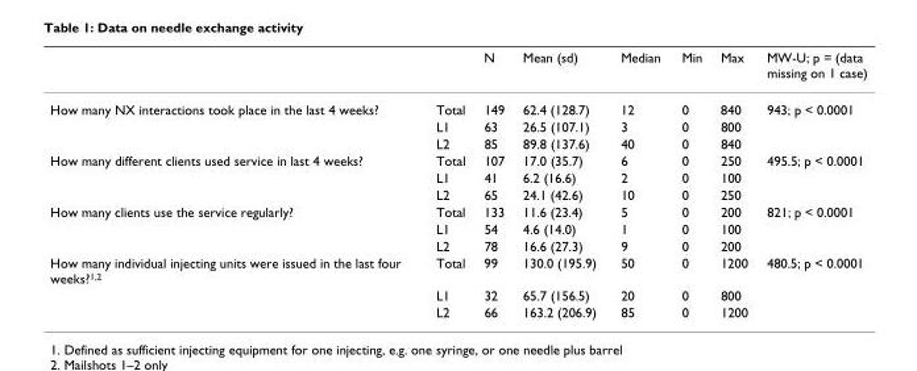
<table><thead><tr><td></td><td></td><td>N</td><td>Mean (sd)</td><td>Median</td><td>Min</td><td>Max</td><td>MW-U; p = (data missing on 1 case)</td></tr></thead><tbody><tr><td rowspan="3">How many NX interactions took place in the last 4 weeks?</td><td>Total</td><td>149</td><td>62.4 (128.7)</td><td>12</td><td>0</td><td>840</td><td>943; p &lt; 0.0001</td></tr><tr><td>L1</td><td>63</td><td>26.5 (107.1)</td><td>3</td><td>0</td><td>800</td><td></td></tr><tr><td>L2</td><td>85</td><td>89.8 (137.6)</td><td>40</td><td>0</td><td>840</td><td></td></tr><tr><td rowspan="3">How many different clients used service in last 4 weeks?</td><td>Total</td><td>107</td><td>17.0 (35.7)</td><td>6</td><td>0</td><td>250</td><td>495.5; p &lt; 0.0001</td></tr><tr><td>L1</td><td>41</td><td>6.2 (16.6)</td><td>2</td><td>0</td><td>100</td><td></td></tr><tr><td>L2</td><td>65</td><td>24.1 (42.6)</td><td>10</td><td>0</td><td>250</td><td></td></tr><tr><td rowspan="3">How many clients use the service regularly?</td><td>Total</td><td>133</td><td>11.6 (23.4)</td><td>5</td><td>0</td><td>200</td><td>821; p &lt; 0.0001</td></tr><tr><td>L1</td><td>54</td><td>4.6 (14.0)</td><td>1</td><td>0</td><td>100</td><td></td></tr><tr><td>L2</td><td>78</td><td>16.6 (27.3)</td><td>9</td><td>0</td><td>200</td><td></td></tr><tr><td rowspan="3">How many individual injecting units were issued in the last four weeks?<sup>1,2</sup></td><td>Total</td><td>99</td><td>130.0 (195.9)</td><td>50</td><td>0</td><td>1200</td><td>480.5; p &lt; 0.0001</td></tr><tr><td>L1</td><td>32</td><td>65.7 (156.5)</td><td>20</td><td>0</td><td>800</td><td></td></tr><tr><td>L2</td><td>66</td><td>163.2 (206.9)</td><td>85</td><td>0</td><td>1200</td><td></td></tr></tbody></table>